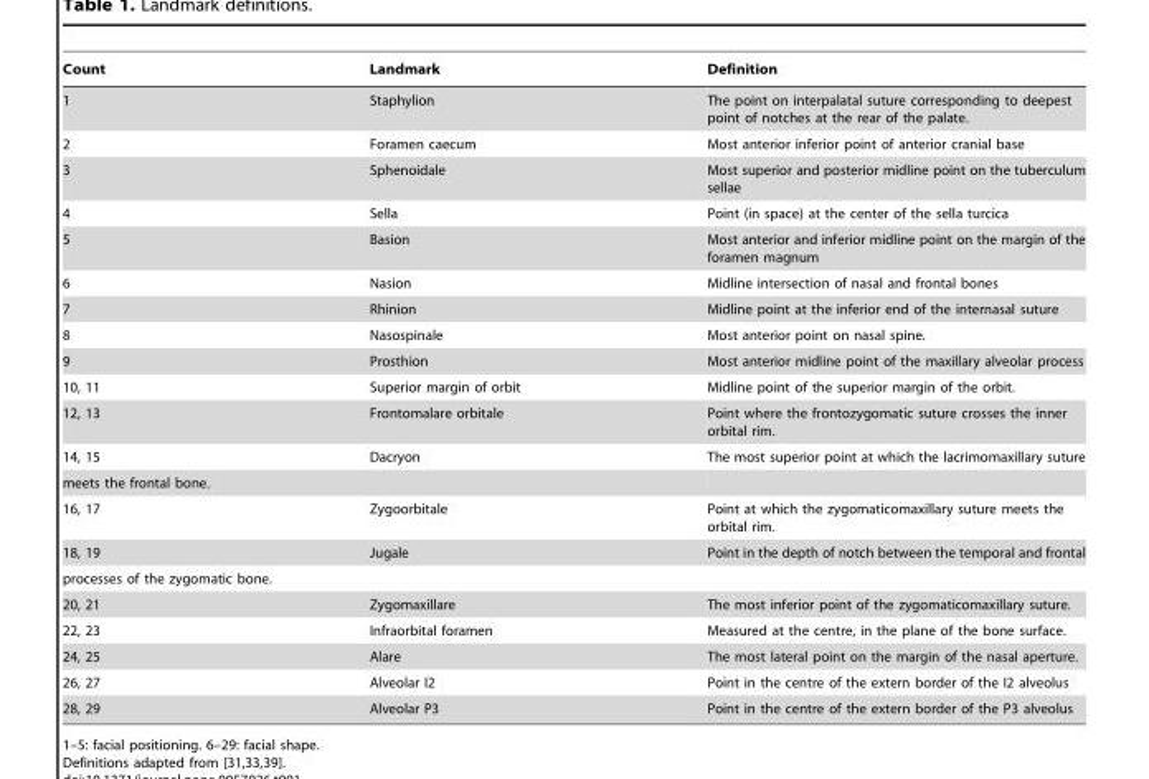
<table><thead><tr><td>Count</td><td>Landmark</td><td>Definition</td></tr></thead><tbody><tr><td>1</td><td>Staphylion</td><td>The point on interpalatal suture corresponding to deepest point of notches at the rear of the palate.</td></tr><tr><td>2</td><td>Foramen caecum</td><td>Most anterior inferior point of anterior cranial base</td></tr><tr><td>3</td><td>Sphenoidale</td><td>Most superior and posterior midline point on the tuberculum sellae</td></tr><tr><td>4</td><td>Sella</td><td>Point (in space) at the center of the sella turcica</td></tr><tr><td>5</td><td>Basion</td><td>Most anterior and inferior midline point on the margin of the foramen magnum</td></tr><tr><td>6</td><td>Nasion</td><td>Midline intersection of nasal and frontal bones</td></tr><tr><td>7</td><td>Rhinion</td><td>Midline point at the inferior end of the internasal suture</td></tr><tr><td>8</td><td>Nasospinale</td><td>Most anterior point on nasal spine.</td></tr><tr><td>9</td><td>Prosthion</td><td>Most anterior midline point of the maxillary alveolar process</td></tr><tr><td>10, 11</td><td>Superior margin of orbit</td><td>Midline point of the superior margin of the orbit.</td></tr><tr><td>12, 13</td><td>Frontomalare orbitale</td><td>Point where the frontozygomatic suture crosses the inner orbital rim.</td></tr><tr><td>14, 15</td><td>Dacryon</td><td>The most superior point at which the lacrimomaxillary suture</td></tr><tr><td colspan="3">meets the frontal bone.</td></tr><tr><td>16, 17</td><td>Zygoorbitale</td><td>Point at which the zygomaticomaxillary suture meets the orbital rim.</td></tr><tr><td>18, 19</td><td>Jugale</td><td>Point in the depth of notch between the temporal and frontal</td></tr><tr><td colspan="3">processes of the zygomatic bone.</td></tr><tr><td>20, 21</td><td>Zygomaxillare</td><td>The most inferior point of the zygomaticomaxillary suture.</td></tr><tr><td>22, 23</td><td>Infraorbital foramen</td><td>Measured at the centre, in the plane of the bone surface.</td></tr><tr><td>24, 25</td><td>Alare</td><td>The most lateral point on the margin of the nasal aperture.</td></tr><tr><td>26, 27</td><td>Alveolar I2</td><td>Point in the centre of the extern border of the I2 alveolus</td></tr><tr><td>28, 29</td><td>Alveolar P3</td><td>Point in the centre of the extern border of the P3 alveolus</td></tr></tbody></table>